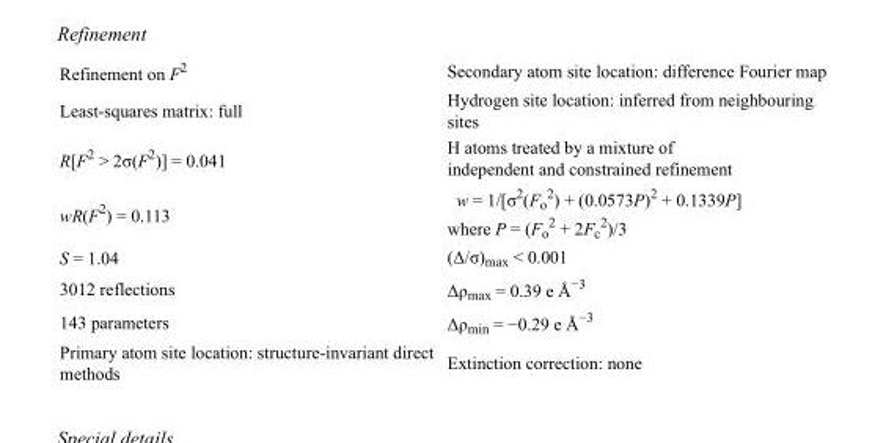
<table><tbody><tr><td>Refinement on F<sup>2</sup></td><td>Secondary atom site location: difference Fourier map</td></tr><tr><td>Least-squares matrix: full</td><td>Hydrogen site location: inferred from neighbouring sites</td></tr><tr><td>R[F<sup>2</sup> &gt; 2σ(F<sup>2</sup>)] = 0.041</td><td>H atoms treated by a mixture of independent and constrained refinement</td></tr><tr><td>wR(F<sup>2</sup>) = 0.113</td><td>w = 1/[σ<sup>2</sup>(F<sub>o</sub> <sup>2</sup>) + (0.0573P)<sup>2</sup> + 0.1339P] where P = (F<sub>o</sub> <sup>2</sup> + 2F<sub>c</sub> <sup>2</sup>)/3</td></tr><tr><td>S = 1.04</td><td>(Δ/σ)<sub>max</sub> &lt; 0.001</td></tr><tr><td>3012 reflections</td><td>Δρ<sub>max</sub> = 0.39 e Å<sup>−3</sup></td></tr><tr><td>143 parameters</td><td>Δρ<sub>min</sub> = −0.29 e Å<sup>−3</sup></td></tr><tr><td>Primary atom site location: structure-invariant direct methods</td><td>Extinction correction: none</td></tr></tbody></table>